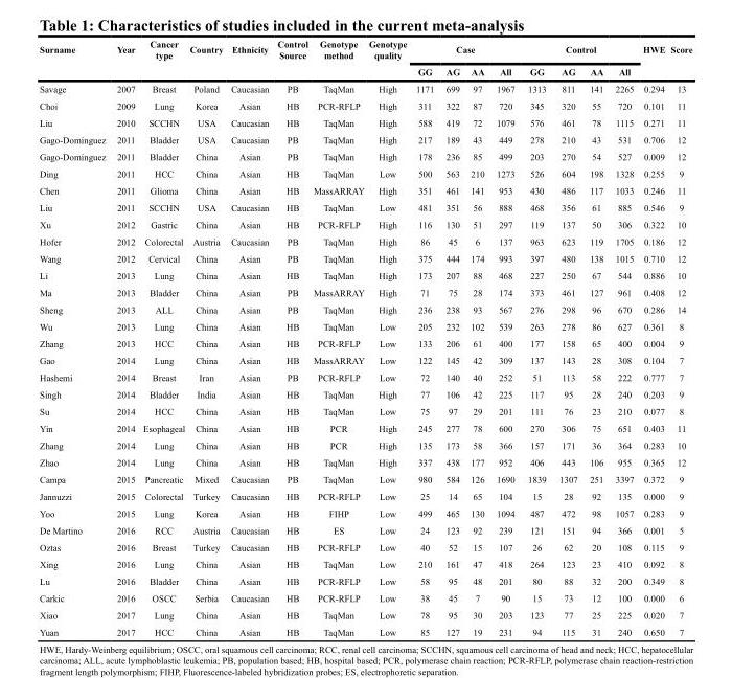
<table><thead><tr><td rowspan="2">Surname</td><td rowspan="2">Year</td><td rowspan="2">Cancer type</td><td rowspan="2">Country</td><td rowspan="2">Ethnicity</td><td rowspan="2">Control Source</td><td rowspan="2">Genotype method</td><td rowspan="2">Genotype quality</td><td colspan="4">Case</td><td colspan="4">Control</td><td rowspan="2">HWE</td><td rowspan="2">Score</td></tr><tr><td>GG</td><td>AG</td><td>AA</td><td>All</td><td>GG</td><td>AG</td><td>AA</td><td>All</td></tr></thead><tbody><tr><td>Savage</td><td>2007</td><td>Breast</td><td>Poland</td><td>Caucasian</td><td>PB</td><td>TaqMan</td><td>High</td><td>1171</td><td>699</td><td>97</td><td>1967</td><td>1313</td><td>811</td><td>141</td><td>2265</td><td>0.294</td><td>13</td></tr><tr><td>Choi</td><td>2009</td><td>Lung</td><td>Korea</td><td>Asian</td><td>HB</td><td>PCR-RFLP</td><td>High</td><td>311</td><td>322</td><td>87</td><td>720</td><td>345</td><td>320</td><td>55</td><td>720</td><td>0.101</td><td>11</td></tr><tr><td>Liu</td><td>2010</td><td>SCCHN</td><td>USA</td><td>Caucasian</td><td>HB</td><td>TaqMan</td><td>High</td><td>588</td><td>419</td><td>72</td><td>1079</td><td>576</td><td>461</td><td>78</td><td>1115</td><td>0.271</td><td>11</td></tr><tr><td>Gago-Dominguez</td><td>2011</td><td>Bladder</td><td>USA</td><td>Caucasian</td><td>PB</td><td>TaqMan</td><td>High</td><td>217</td><td>189</td><td>43</td><td>449</td><td>278</td><td>210</td><td>43</td><td>531</td><td>0.706</td><td>12</td></tr><tr><td>Gago-Dominguez</td><td>2011</td><td>Bladder</td><td>China</td><td>Asian</td><td>PB</td><td>TaqMan</td><td>High</td><td>178</td><td>236</td><td>85</td><td>499</td><td>203</td><td>270</td><td>54</td><td>527</td><td>0.009</td><td>12</td></tr><tr><td>Ding</td><td>2011</td><td>HCC</td><td>China</td><td>Asian</td><td>HB</td><td>TaqMan</td><td>Low</td><td>500</td><td>563</td><td>210</td><td>1273</td><td>526</td><td>604</td><td>198</td><td>1328</td><td>0.255</td><td>9</td></tr><tr><td>Chen</td><td>2011</td><td>Glioma</td><td>China</td><td>Asian</td><td>HB</td><td>MassARRAY</td><td>High</td><td>351</td><td>461</td><td>141</td><td>953</td><td>430</td><td>486</td><td>117</td><td>1033</td><td>0.246</td><td>11</td></tr><tr><td>Liu</td><td>2011</td><td>SCCHN</td><td>USA</td><td>Caucasian</td><td>HB</td><td>TaqMan</td><td>Low</td><td>481</td><td>351</td><td>56</td><td>888</td><td>468</td><td>356</td><td>61</td><td>885</td><td>0.546</td><td>9</td></tr><tr><td>Xu</td><td>2012</td><td>Gastric</td><td>China</td><td>Asian</td><td>HB</td><td>PCR-RFLP</td><td>High</td><td>116</td><td>130</td><td>51</td><td>297</td><td>119</td><td>137</td><td>50</td><td>306</td><td>0.322</td><td>10</td></tr><tr><td>Hofer</td><td>2012</td><td>Colorectal</td><td>Austria</td><td>Caucasian</td><td>PB</td><td>TaqMan</td><td>High</td><td>86</td><td>45</td><td>6</td><td>137</td><td>963</td><td>623</td><td>119</td><td>1705</td><td>0.186</td><td>12</td></tr><tr><td>Wang</td><td>2012</td><td>Cervical</td><td>China</td><td>Asian</td><td>PB</td><td>TaqMan</td><td>High</td><td>375</td><td>444</td><td>174</td><td>993</td><td>397</td><td>480</td><td>138</td><td>1015</td><td>0.710</td><td>12</td></tr><tr><td>Li</td><td>2013</td><td>Lung</td><td>China</td><td>Asian</td><td>HB</td><td>TaqMan</td><td>High</td><td>173</td><td>207</td><td>88</td><td>468</td><td>227</td><td>250</td><td>67</td><td>544</td><td>0.886</td><td>10</td></tr><tr><td>Ma</td><td>2013</td><td>Bladder</td><td>China</td><td>Asian</td><td>PB</td><td>MassARRAY</td><td>High</td><td>71</td><td>75</td><td>28</td><td>174</td><td>373</td><td>461</td><td>127</td><td>961</td><td>0.408</td><td>12</td></tr><tr><td>Sheng</td><td>2013</td><td>ALL</td><td>China</td><td>Asian</td><td>PB</td><td>TaqMan</td><td>High</td><td>236</td><td>238</td><td>93</td><td>567</td><td>276</td><td>298</td><td>96</td><td>670</td><td>0.286</td><td>14</td></tr><tr><td>Wu</td><td>2013</td><td>Lung</td><td>China</td><td>Asian</td><td>HB</td><td>TaqMan</td><td>Low</td><td>205</td><td>232</td><td>102</td><td>539</td><td>263</td><td>278</td><td>86</td><td>627</td><td>0.361</td><td>8</td></tr><tr><td>Zhang</td><td>2013</td><td>HCC</td><td>China</td><td>Asian</td><td>HB</td><td>PCR-RFLP</td><td>Low</td><td>133</td><td>206</td><td>61</td><td>400</td><td>177</td><td>158</td><td>65</td><td>400</td><td>0.004</td><td>9</td></tr><tr><td>Gao</td><td>2014</td><td>Lung</td><td>China</td><td>Asian</td><td>HB</td><td>MassARRAY</td><td>Low</td><td>122</td><td>145</td><td>42</td><td>309</td><td>137</td><td>143</td><td>28</td><td>308</td><td>0.104</td><td>7</td></tr><tr><td>Hashemi</td><td>2014</td><td>Breast</td><td>Iran</td><td>Asian</td><td>PB</td><td>PCR-RFLP</td><td>Low</td><td>72</td><td>140</td><td>40</td><td>252</td><td>51</td><td>113</td><td>58</td><td>222</td><td>0.777</td><td>7</td></tr><tr><td>Singh</td><td>2014</td><td>Bladder</td><td>India</td><td>Asian</td><td>HB</td><td>TaqMan</td><td>High</td><td>77</td><td>106</td><td>42</td><td>225</td><td>117</td><td>95</td><td>28</td><td>240</td><td>0.203</td><td>9</td></tr><tr><td>Su</td><td>2014</td><td>HCC</td><td>China</td><td>Asian</td><td>HB</td><td>TaqMan</td><td>Low</td><td>75</td><td>97</td><td>29</td><td>201</td><td>111</td><td>76</td><td>23</td><td>210</td><td>0.077</td><td>8</td></tr><tr><td>Yin</td><td>2014</td><td>Esophageal</td><td>China</td><td>Asian</td><td>HB</td><td>PCR</td><td>High</td><td>245</td><td>277</td><td>78</td><td>600</td><td>270</td><td>306</td><td>75</td><td>651</td><td>0.403</td><td>11</td></tr><tr><td>Zhang</td><td>2014</td><td>Lung</td><td>China</td><td>Asian</td><td>HB</td><td>PCR</td><td>High</td><td>135</td><td>173</td><td>58</td><td>366</td><td>157</td><td>171</td><td>36</td><td>364</td><td>0.283</td><td>10</td></tr><tr><td>Zhao</td><td>2014</td><td>Lung</td><td>China</td><td>Asian</td><td>HB</td><td>TaqMan</td><td>High</td><td>337</td><td>438</td><td>177</td><td>952</td><td>406</td><td>443</td><td>106</td><td>955</td><td>0.365</td><td>12</td></tr><tr><td>Campa</td><td>2015</td><td>Pancreatic</td><td>Mixed</td><td>Caucasian</td><td>PB</td><td>TaqMan</td><td>Low</td><td>980</td><td>584</td><td>126</td><td>1690</td><td>1839</td><td>1307</td><td>251</td><td>3397</td><td>0.372</td><td>9</td></tr><tr><td>Jannuzzi</td><td>2015</td><td>Colorectal</td><td>Turkey</td><td>Caucasian</td><td>HB</td><td>PCR-RFLP</td><td>Low</td><td>25</td><td>14</td><td>65</td><td>104</td><td>15</td><td>28</td><td>92</td><td>135</td><td>0.000</td><td>9</td></tr><tr><td>Yoo</td><td>2015</td><td>Lung</td><td>Korea</td><td>Asian</td><td>HB</td><td>FIHP</td><td>Low</td><td>499</td><td>465</td><td>130</td><td>1094</td><td>487</td><td>472</td><td>98</td><td>1057</td><td>0.283</td><td>9</td></tr><tr><td>De Martino</td><td>2016</td><td>RCC</td><td>Austria</td><td>Caucasian</td><td>HB</td><td>ES</td><td>Low</td><td>24</td><td>123</td><td>92</td><td>239</td><td>121</td><td>151</td><td>94</td><td>366</td><td>0.001</td><td>5</td></tr><tr><td>Oztas</td><td>2016</td><td>Breast</td><td>Turkey</td><td>Caucasian</td><td>HB</td><td>PCR-RFLP</td><td>Low</td><td>40</td><td>52</td><td>15</td><td>107</td><td>26</td><td>62</td><td>20</td><td>108</td><td>0.115</td><td>9</td></tr><tr><td>Xing</td><td>2016</td><td>Lung</td><td>China</td><td>Asian</td><td>HB</td><td>TaqMan</td><td>Low</td><td>210</td><td>161</td><td>47</td><td>418</td><td>264</td><td>123</td><td>23</td><td>410</td><td>0.092</td><td>8</td></tr><tr><td>Lu</td><td>2016</td><td>Bladder</td><td>China</td><td>Asian</td><td>HB</td><td>PCR-RFLP</td><td>Low</td><td>58</td><td>95</td><td>48</td><td>201</td><td>80</td><td>88</td><td>32</td><td>200</td><td>0.349</td><td>8</td></tr><tr><td>Carkic</td><td>2016</td><td>OSCC</td><td>Serbia</td><td>Caucasian</td><td>HB</td><td>PCR-RFLP</td><td>Low</td><td>38</td><td>45</td><td>7</td><td>90</td><td>15</td><td>73</td><td>12</td><td>100</td><td>0.000</td><td>6</td></tr><tr><td>Xiao</td><td>2017</td><td>Lung</td><td>China</td><td>Asian</td><td>HB</td><td>TaqMan</td><td>Low</td><td>78</td><td>95</td><td>30</td><td>203</td><td>123</td><td>77</td><td>25</td><td>225</td><td>0.020</td><td>7</td></tr><tr><td>Yuan</td><td>2017</td><td>HCC</td><td>China</td><td>Asian</td><td>HB</td><td>TaqMan</td><td>Low</td><td>85</td><td>127</td><td>19</td><td>231</td><td>94</td><td>115</td><td>31</td><td>240</td><td>0.650</td><td>7</td></tr></tbody></table>